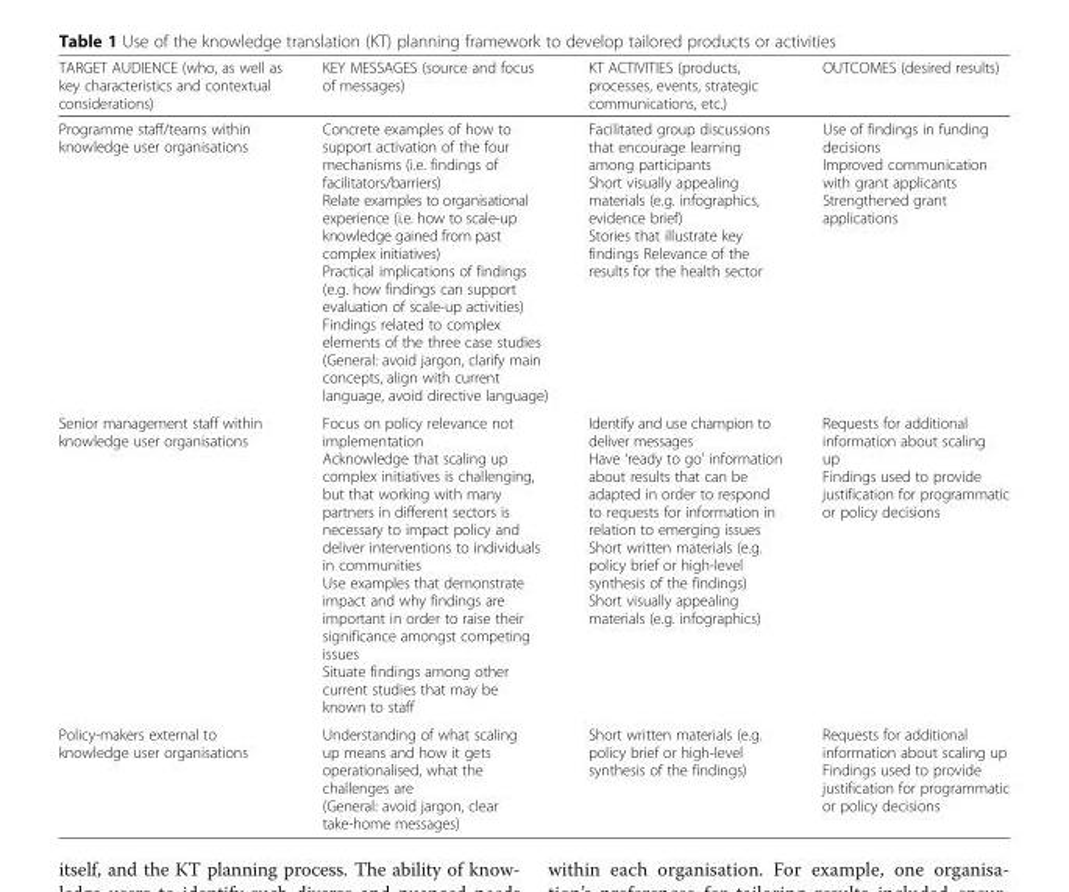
<table><thead><tr><td>TARGET AUDIENCE (who, as well as key characteristics and contextual considerations)</td><td>KEY MESSAGES (source and focus of messages)</td><td>KT ACTIVITIES (products, processes, events, strategic communications, etc.)</td><td>OUTCOMES (desired results)</td></tr></thead><tbody><tr><td>Programme staff/teams within knowledge user organisations</td><td>Concrete examples of how to support activation of the four mechanisms (i.e. findings of facilitators/barriers) Relate examples to organisational experience (i.e. how to scale-up knowledge gained from past complex initiatives) Practical implications of findings (e.g. how findings can support evaluation of scale-up activities) Findings related to complex elements of the three case studies (General: avoid jargon, clarify main concepts, align with current language, avoid directive language)</td><td>Facilitated group discussions that encourage learning among participants Short visually appealing materials (e.g. infographics, evidence brief) Stories that illustrate key findings Relevance of the results for the health sector</td><td>Use of findings in funding decisions Improved communication with grant applicants Strengthened grant applications</td></tr><tr><td>Senior management staff within knowledge user organisations</td><td>Focus on policy relevance not implementation Acknowledge that scaling up complex initiatives is challenging, but that working with many partners in different sectors is necessary to impact policy and deliver interventions to individuals in communities Use examples that demonstrate impact and why findings are important in order to raise their significance amongst competing issues Situate findings among other current studies that may be known to staff</td><td>Identify and use champion to deliver messages Have ‘ready to go’ information about results that can be adapted in order to respond to requests for information in relation to emerging issues Short written materials (e.g. policy brief or high-level synthesis of the findings) Short visually appealing materials (e.g. infographics)</td><td>Requests for additional information about scaling up Findings used to provide justification for programmatic or policy decisions</td></tr><tr><td>Policy-makers external to knowledge user organisations</td><td>Understanding of what scaling up means and how it gets operationalised, what the challenges are (General: avoid jargon, clear take-home messages)</td><td>Short written materials (e.g. policy brief or high-level synthesis of the findings)</td><td>Requests for additional information about scaling up Findings used to provide justification for programmatic or policy decisions</td></tr></tbody></table>